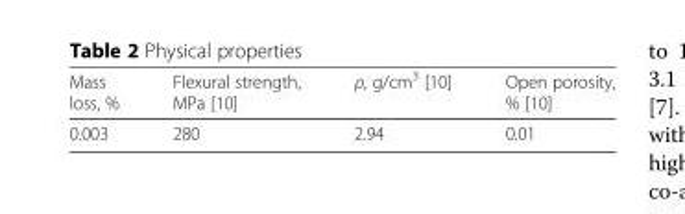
<table><thead><tr><td>Mass loss, %</td><td>Flexural strength, MPa [10]</td><td>ρ, g/cm<sup>3</sup> [10]</td><td>Open porosity, % [10]</td></tr></thead><tbody><tr><td>0.003</td><td>280</td><td>2.94</td><td>0.01</td></tr></tbody></table>